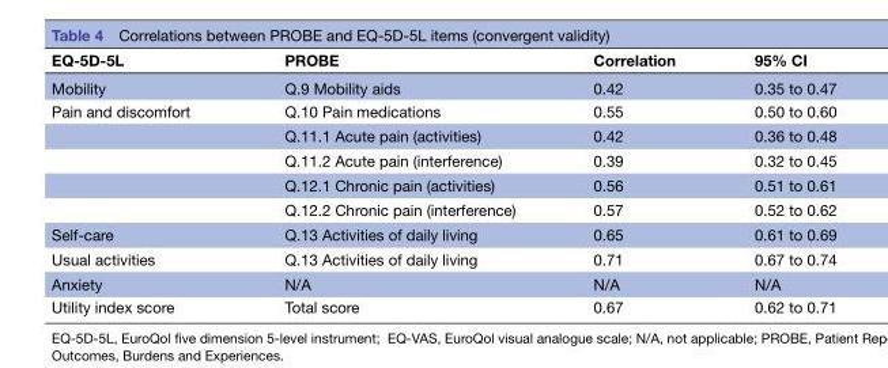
<table><thead><tr><td>EQ-5D-5L</td><td>PROBE</td><td>Correlation</td><td>95% CI</td></tr></thead><tbody><tr><td>Mobility</td><td>Q.9 Mobility aids</td><td>0.42</td><td>0.35 to 0.47</td></tr><tr><td rowspan="5">Pain and discomfort</td><td>Q.10 Pain medications</td><td>0.55</td><td>0.50 to 0.60</td></tr><tr><td>Q.11.1 Acute pain (activities)</td><td>0.42</td><td>0.36 to 0.48</td></tr><tr><td>Q.11.2 Acute pain (interference)</td><td>0.39</td><td>0.32 to 0.45</td></tr><tr><td>Q.12.1 Chronic pain (activities)</td><td>0.56</td><td>0.51 to 0.61</td></tr><tr><td>Q.12.2 Chronic pain (interference)</td><td>0.57</td><td>0.52 to 0.62</td></tr><tr><td>Self-care</td><td>Q.13 Activities of daily living</td><td>0.65</td><td>0.61 to 0.69</td></tr><tr><td>Usual activities</td><td>Q.13 Activities of daily living</td><td>0.71</td><td>0.67 to 0.74</td></tr><tr><td>Anxiety</td><td>N/A</td><td>N/A</td><td>N/A</td></tr><tr><td>Utility index score</td><td>Total score</td><td>0.67</td><td>0.62 to 0.71</td></tr></tbody></table>